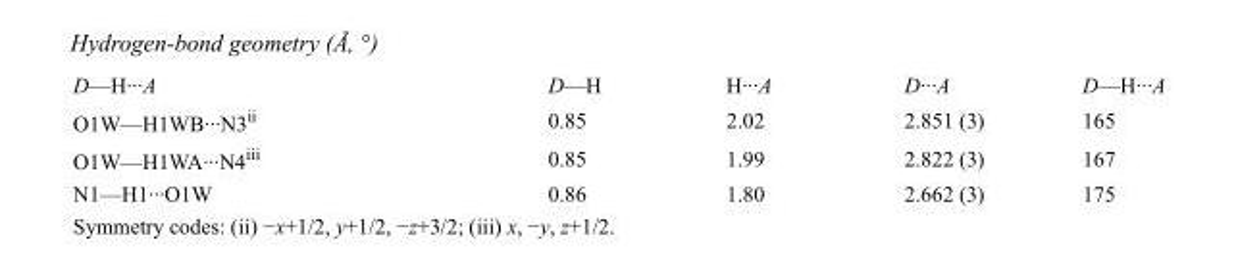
<table><tbody><tr><td>D—H···A</td><td>D—H</td><td>H···A</td><td>D···A</td><td>D—H···A</td></tr><tr><td>O1W—H1WB···N3<sup>ii</sup></td><td>0.85</td><td>2.02</td><td>2.851 (3)</td><td>165</td></tr><tr><td>O1W—H1WA···N4<sup>iii</sup></td><td>0.85</td><td>1.99</td><td>2.822 (3)</td><td>167</td></tr><tr><td>N1—H1···O1W</td><td>0.86</td><td>1.80</td><td>2.662 (3)</td><td>175</td></tr></tbody></table>